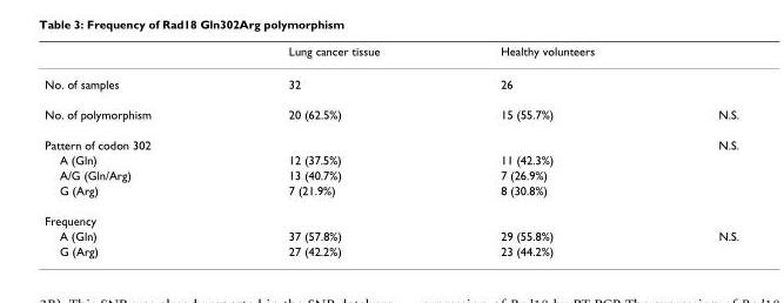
<table><thead><tr><td></td><td>Lung cancer tissue</td><td>Healthy volunteers</td><td></td></tr></thead><tbody><tr><td>No. of samples</td><td>32</td><td>26</td><td></td></tr><tr><td>No. of polymorphism</td><td>20 (62.5%)</td><td>15 (55.7%)</td><td>N.S.</td></tr><tr><td>Pattern of codon 302</td><td></td><td></td><td>N.S.</td></tr><tr><td>A (Gln)</td><td>12 (37.5%)</td><td>11 (42.3%)</td><td></td></tr><tr><td>A/G (Gln/Arg)</td><td>13 (40.7%)</td><td>7 (26.9%)</td><td></td></tr><tr><td>G (Arg)</td><td>7 (21.9%)</td><td>8 (30.8%)</td><td></td></tr><tr><td colspan="4">Frequency</td></tr><tr><td>A (Gln)</td><td>37 (57.8%)</td><td>29 (55.8%)</td><td>N.S.</td></tr><tr><td>G (Arg)</td><td>27 (42.2%)</td><td>23 (44.2%)</td><td></td></tr></tbody></table>